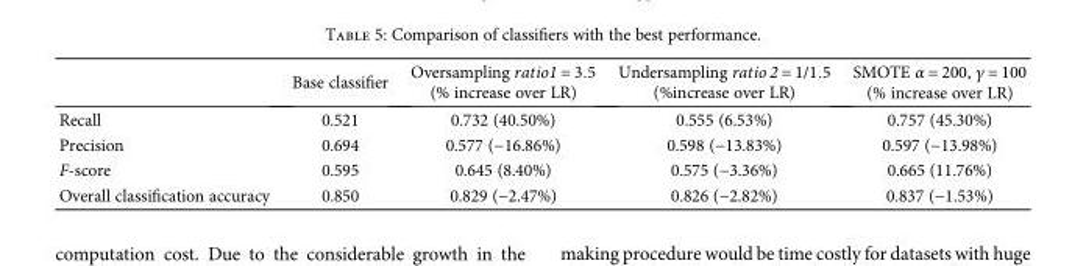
<table><thead><tr><td></td><td>Base classifier</td><td>Oversampling ratio1 = 3 5 (% increase over LR)</td><td>Undersampling ratio 2 = 1/1 5 (%increase over LR)</td><td>SMOTE α = 200, γ = 100 (% increase over LR)</td></tr></thead><tbody><tr><td>Recall</td><td>0.521</td><td>0.732 (40.50%)</td><td>0.555 (6.53%)</td><td>0.757 (45.30%)</td></tr><tr><td>Precision</td><td>0.694</td><td>0.577 (−16.86%)</td><td>0.598 (−13.83%)</td><td>0.597 (−13.98%)</td></tr><tr><td>F-score</td><td>0.595</td><td>0.645 (8.40%)</td><td>0.575 (−3.36%)</td><td>0.665 (11.76%)</td></tr><tr><td>Overall classification accuracy</td><td>0.850</td><td>0.829 (−2.47%)</td><td>0.826 (−2.82%)</td><td>0.837 (−1.53%)</td></tr></tbody></table>